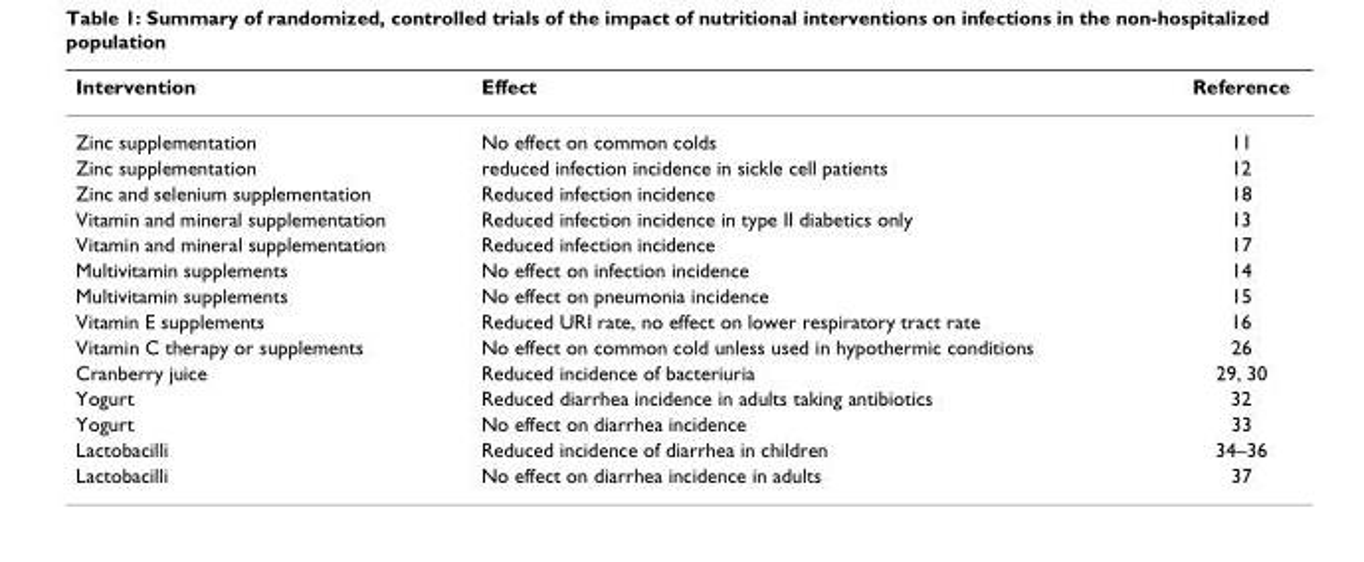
<table><thead><tr><td>Intervention</td><td>Effect</td><td>Reference</td></tr></thead><tbody><tr><td>Zinc supplementation</td><td>No effect on common colds</td><td>11</td></tr><tr><td>Zinc supplementation</td><td>reduced infection incidence in sickle cell patients</td><td>12</td></tr><tr><td>Zinc and selenium supplementation</td><td>Reduced infection incidence</td><td>18</td></tr><tr><td>Vitamin and mineral supplementation</td><td>Reduced infection incidence in type II diabetics only</td><td>13</td></tr><tr><td>Vitamin and mineral supplementation</td><td>Reduced infection incidence</td><td>17</td></tr><tr><td>Multivitamin supplements</td><td>No effect on infection incidence</td><td>14</td></tr><tr><td>Multivitamin supplements</td><td>No effect on pneumonia incidence</td><td>15</td></tr><tr><td>Vitamin E supplements</td><td>Reduced URI rate, no effect on lower respiratory tract rate</td><td>16</td></tr><tr><td>Vitamin C therapy or supplements</td><td>No effect on common cold unless used in hypothermic conditions</td><td>26</td></tr><tr><td>Cranberry juice</td><td>Reduced incidence of bacteriuria</td><td>29, 30</td></tr><tr><td>Yogurt</td><td>Reduced diarrhea incidence in adults taking antibiotics</td><td>32</td></tr><tr><td>Yogurt</td><td>No effect on diarrhea incidence</td><td>33</td></tr><tr><td>Lactobacilli</td><td>Reduced incidence of diarrhea in children</td><td>34–36</td></tr><tr><td>Lactobacilli</td><td>No effect on diarrhea incidence in adults</td><td>37</td></tr></tbody></table>